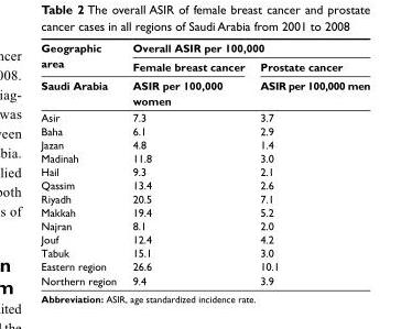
<table><thead><tr><td rowspan="3">Geographic area Saudi Arabia</td><td colspan="2">Overall ASIR per 100,000</td></tr><tr><td rowspan="2">Female breast cancer ASIR per 100,000 women</td><td rowspan="2">Prostate cancer ASIR per 100,000 men</td></tr><tr></tr></thead><tbody><tr><td>Asir</td><td>7.3</td><td>3.7</td></tr><tr><td>Baha</td><td>6.1</td><td>2.9</td></tr><tr><td>Jazan</td><td>4.8</td><td>1.4</td></tr><tr><td>Madinah</td><td>11.8</td><td>3.0</td></tr><tr><td>hail</td><td>9.3</td><td>2.1</td></tr><tr><td>Qassim</td><td>13.4</td><td>2.6</td></tr><tr><td>Riyadh</td><td>20.5</td><td>7.1</td></tr><tr><td>Makkah</td><td>19.4</td><td>5.2</td></tr><tr><td>Najran</td><td>8.1</td><td>2.0</td></tr><tr><td>Jouf</td><td>12.4</td><td>4.2</td></tr><tr><td>Tabuk</td><td>15.1</td><td>3.0</td></tr><tr><td>eastern region</td><td>26.6</td><td>10.1</td></tr><tr><td>Northern region</td><td>9.4</td><td>3.9</td></tr></tbody></table>